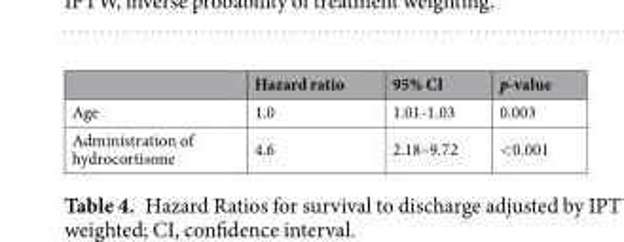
<table><thead><tr><td></td><td>Hazard ratio</td><td>95% CI</td><td>p-value</td></tr></thead><tbody><tr><td>Age</td><td>1.0</td><td>1.01-1.03</td><td>0.003</td></tr><tr><td>Administration of hydrocortisone</td><td>4.6</td><td>2.18–9.72</td><td>&lt;0.001</td></tr></tbody></table>